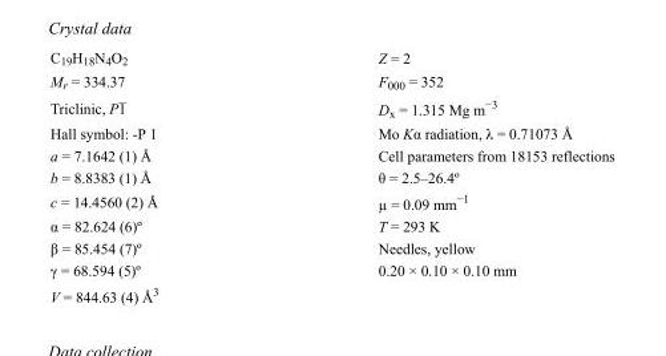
<table><tbody><tr><td>C<sub>19</sub>H<sub>18</sub>N<sub>4</sub>O<sub>2</sub></td><td>Z = 2</td></tr><tr><td>M<sub>r</sub> = 334.37</td><td>F000 = 352</td></tr><tr><td>Triclinic, P1</td><td>D<sub>x</sub> = 1.315 Mg m<sup>−3</sup></td></tr><tr><td>Hall symbol: -P 1</td><td>Mo Kα radiation, λ = 0.71073 Å</td></tr><tr><td>a = 7.1642 (1) Å</td><td>Cell parameters from 18153 reflections</td></tr><tr><td>b = 8.8383 (1) Å</td><td>θ = 2.5–26.4º</td></tr><tr><td>c = 14.4560 (2) Å</td><td>µ = 0.09 mm<sup>−1</sup></td></tr><tr><td>α = 82.624 (6)º</td><td>T = 293 K</td></tr><tr><td>β = 85.454 (7)º</td><td>Needles, yellow</td></tr><tr><td>γ = 68.594 (5)º</td><td>0.20 × 0.10 × 0.10 mm</td></tr><tr><td>V = 844.63 (4) Å<sup>3</sup></td><td></td></tr></tbody></table>